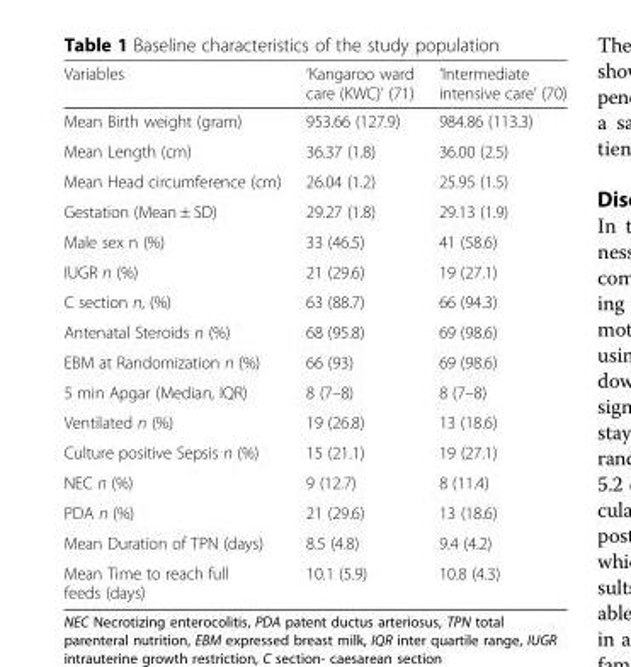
<table><thead><tr><td>Variables</td><td>‘Kangaroo ward care (KWC)’ (71)</td><td>‘Intermediate intensive care’ (70)</td></tr></thead><tbody><tr><td>Mean Birth weight (gram)</td><td>953.66 (127.9)</td><td>984.86 (113.3)</td></tr><tr><td>Mean Length (cm)</td><td>36.37 (1.8)</td><td>36.00 (2.5)</td></tr><tr><td>Mean Head circumference (cm)</td><td>26.04 (1.2)</td><td>25.95 (1.5)</td></tr><tr><td>Gestation (Mean ± SD)</td><td>29.27 (1.8)</td><td>29.13 (1.9)</td></tr><tr><td>Male sex n (%)</td><td>33 (46.5)</td><td>41 (58.6)</td></tr><tr><td>IUGR n (%)</td><td>21 (29.6)</td><td>19 (27.1)</td></tr><tr><td>C section n, (%)</td><td>63 (88.7)</td><td>66 (94.3)</td></tr><tr><td>Antenatal Steroids n (%)</td><td>68 (95.8)</td><td>69 (98.6)</td></tr><tr><td>EBM at Randomization n (%)</td><td>66 (93)</td><td>69 (98.6)</td></tr><tr><td>5 min Apgar (Median, IQR)</td><td>8 (7–8)</td><td>8 (7–8)</td></tr><tr><td>Ventilated n (%)</td><td>19 (26.8)</td><td>13 (18.6)</td></tr><tr><td>Culture positive Sepsis n (%)</td><td>15 (21.1)</td><td>19 (27.1)</td></tr><tr><td>NEC n (%)</td><td>9 (12.7)</td><td>8 (11.4)</td></tr><tr><td>PDA n (%)</td><td>21 (29.6)</td><td>13 (18.6)</td></tr><tr><td>Mean Duration of TPN (days)</td><td>8.5 (4.8)</td><td>9.4 (4.2)</td></tr><tr><td>Mean Time to reach full feeds (days)</td><td>10.1 (5.9)</td><td>10.8 (4.3)</td></tr></tbody></table>